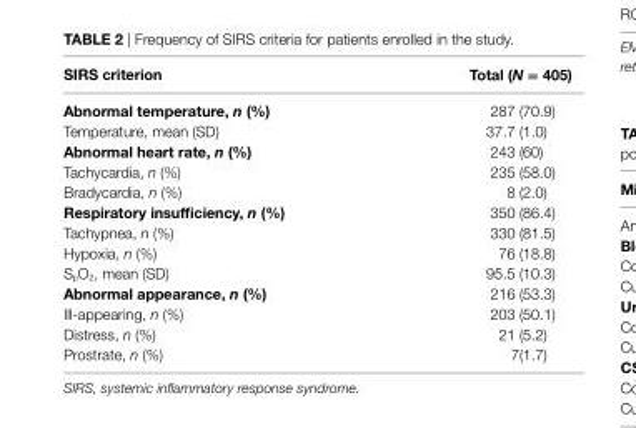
<table><thead><tr><td>sirs criterion</td><td>Total (N = 405)</td></tr></thead><tbody><tr><td>abnormal temperature, n (%)</td><td>287 (70.9)</td></tr><tr><td>Temperature, mean (SD)</td><td>37.7 (1.0)</td></tr><tr><td>abnormal heart rate, n (%)</td><td>243 (60)</td></tr><tr><td>Tachycardia, n (%)</td><td>235 (58.0)</td></tr><tr><td>Bradycardia, n (%)</td><td>8 (2.0)</td></tr><tr><td>respiratory insufficiency, n (%)</td><td>350 (86.4)</td></tr><tr><td>Tachypnea, n (%)</td><td>330 (81.5)</td></tr><tr><td>Hypoxia, n (%)</td><td>76 (18.8)</td></tr><tr><td>S<sub>p</sub>O<sub>2</sub>, mean (SD)</td><td>95.5 (10.3)</td></tr><tr><td>abnormal appearance, n (%)</td><td>216 (53.3)</td></tr><tr><td>Ill-appearing, n (%)</td><td>203 (50.1)</td></tr><tr><td>Distress, n (%)</td><td>21 (5.2)</td></tr><tr><td>Prostrate, n (%)</td><td>7(1.7)</td></tr></tbody></table>